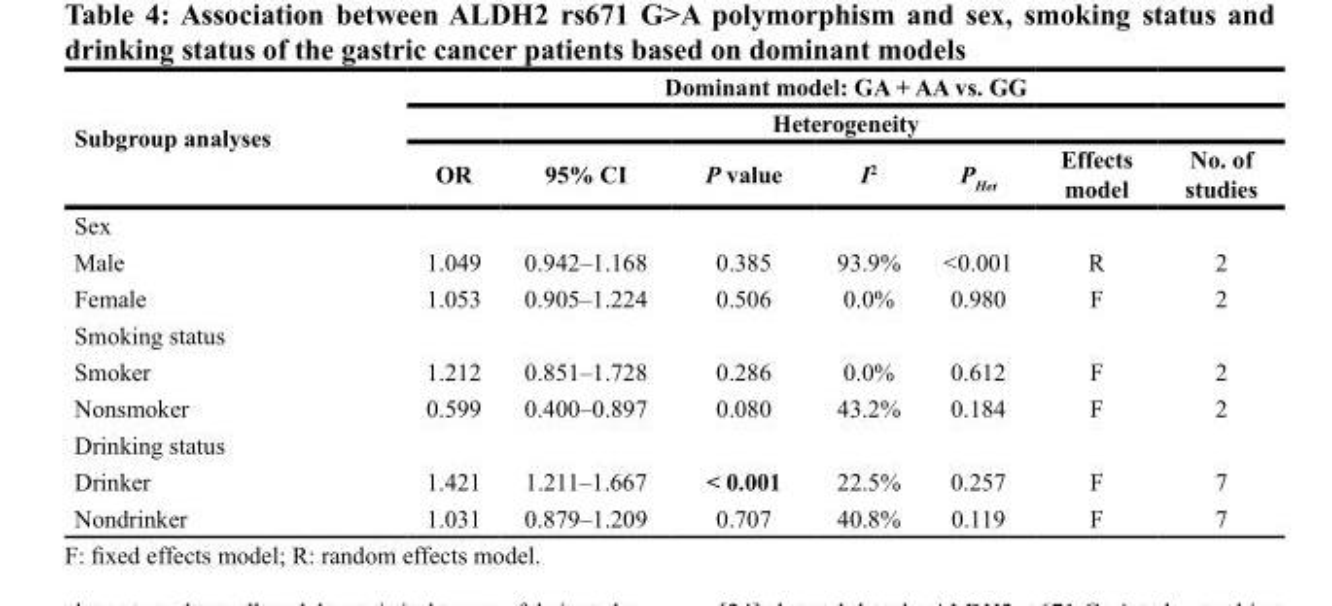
<table><thead><tr><td rowspan="3">Subgroup analyses</td><td rowspan="2" colspan="7">Dominant model: GA + AA vs. GG Heterogeneity</td></tr><tr></tr><tr><td>OR</td><td>95% CI</td><td>P value</td><td>I<sup>2</sup></td><td>P<sub>Het</sub></td><td>Effects model</td><td>No. of studies</td></tr></thead><tbody><tr><td colspan="8">Sex</td></tr><tr><td>Male</td><td>1.049</td><td>0.942–1.168</td><td>0.385</td><td>93.9%</td><td>&lt;0.001</td><td>R</td><td>2</td></tr><tr><td>Female</td><td>1.053</td><td>0.905–1.224</td><td>0.506</td><td>0.0%</td><td>0.980</td><td>F</td><td>2</td></tr><tr><td colspan="8">Smoking status</td></tr><tr><td>Smoker</td><td>1.212</td><td>0.851–1.728</td><td>0.286</td><td>0.0%</td><td>0.612</td><td>F</td><td>2</td></tr><tr><td>Nonsmoker</td><td>0.599</td><td>0.400–0.897</td><td>0.080</td><td>43.2%</td><td>0.184</td><td>F</td><td>2</td></tr><tr><td colspan="8">Drinking status</td></tr><tr><td>Drinker</td><td>1.421</td><td>1.211–1.667</td><td>&lt; 0.001</td><td>22.5%</td><td>0.257</td><td>F</td><td>7</td></tr><tr><td>Nondrinker</td><td>1.031</td><td>0.879–1.209</td><td>0.707</td><td>40.8%</td><td>0.119</td><td>F</td><td>7</td></tr></tbody></table>